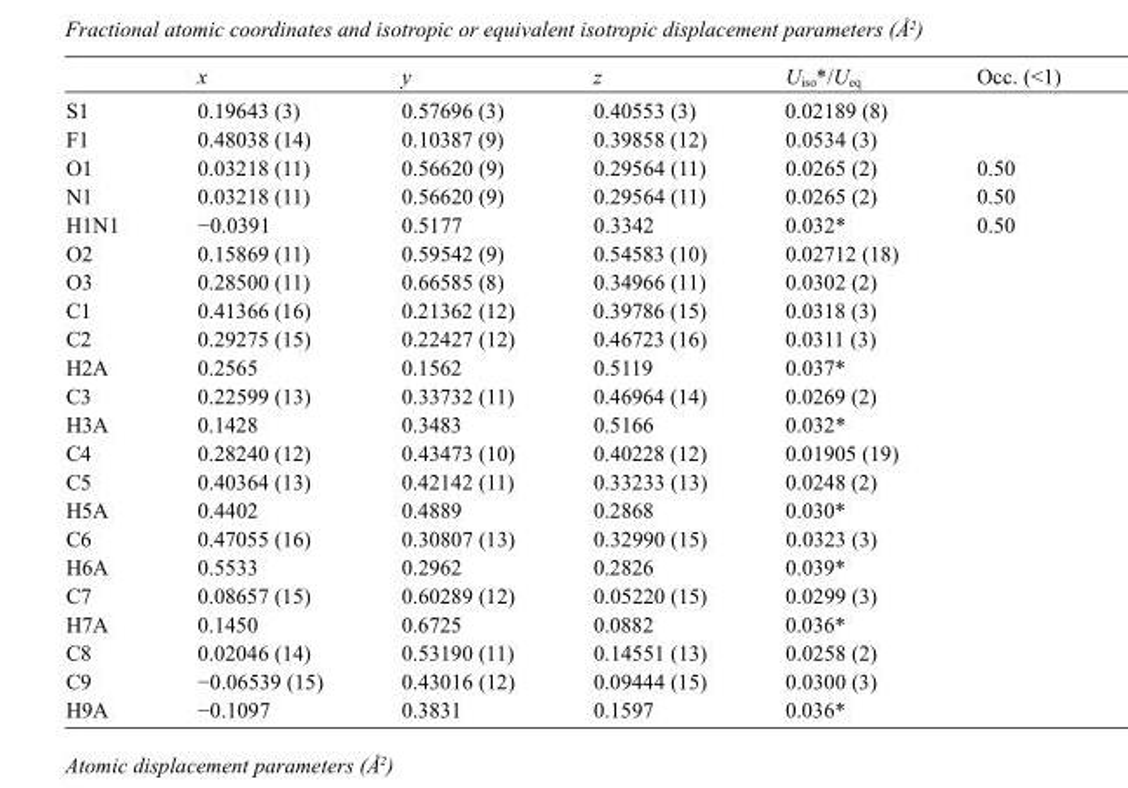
<table><thead><tr><td></td><td>x</td><td>y</td><td>z</td><td>U<sub>iso</sub>*/U<sub>eq</sub></td><td>Occ. (&lt;1)</td></tr></thead><tbody><tr><td>S1</td><td>0.19643 (3)</td><td>0.57696 (3)</td><td>0.40553 (3)</td><td>0.02189 (8)</td><td></td></tr><tr><td>F1</td><td>0.48038 (14)</td><td>0.10387 (9)</td><td>0.39858 (12)</td><td>0.0534 (3)</td><td></td></tr><tr><td>O1</td><td>0.03218 (11)</td><td>0.56620 (9)</td><td>0.29564 (11)</td><td>0.0265 (2)</td><td>0.50</td></tr><tr><td>N1</td><td>0.03218 (11)</td><td>0.56620 (9)</td><td>0.29564 (11)</td><td>0.0265 (2)</td><td>0.50</td></tr><tr><td>H1N1</td><td>−0.0391</td><td>0.5177</td><td>0.3342</td><td>0.032*</td><td>0.50</td></tr><tr><td>O2</td><td>0.15869 (11)</td><td>0.59542 (9)</td><td>0.54583 (10)</td><td>0.02712 (18)</td><td></td></tr><tr><td>O3</td><td>0.28500 (11)</td><td>0.66585 (8)</td><td>0.34966 (11)</td><td>0.0302 (2)</td><td></td></tr><tr><td>C1</td><td>0.41366 (16)</td><td>0.21362 (12)</td><td>0.39786 (15)</td><td>0.0318 (3)</td><td></td></tr><tr><td>C2</td><td>0.29275 (15)</td><td>0.22427 (12)</td><td>0.46723 (16)</td><td>0.0311 (3)</td><td></td></tr><tr><td>H2A</td><td>0.2565</td><td>0.1562</td><td>0.5119</td><td>0.037*</td><td></td></tr><tr><td>C3</td><td>0.22599 (13)</td><td>0.33732 (11)</td><td>0.46964 (14)</td><td>0.0269 (2)</td><td></td></tr><tr><td>H3A</td><td>0.1428</td><td>0.3483</td><td>0.5166</td><td>0.032*</td><td></td></tr><tr><td>C4</td><td>0.28240 (12)</td><td>0.43473 (10)</td><td>0.40228 (12)</td><td>0.01905 (19)</td><td></td></tr><tr><td>C5</td><td>0.40364 (13)</td><td>0.42142 (11)</td><td>0.33233 (13)</td><td>0.0248 (2)</td><td></td></tr><tr><td>H5A</td><td>0.4402</td><td>0.4889</td><td>0.2868</td><td>0.030*</td><td></td></tr><tr><td>C6</td><td>0.47055 (16)</td><td>0.30807 (13)</td><td>0.32990 (15)</td><td>0.0323 (3)</td><td></td></tr><tr><td>H6A</td><td>0.5533</td><td>0.2962</td><td>0.2826</td><td>0.039*</td><td></td></tr><tr><td>C7</td><td>0.08657 (15)</td><td>0.60289 (12)</td><td>0.05220 (15)</td><td>0.0299 (3)</td><td></td></tr><tr><td>H7A</td><td>0.1450</td><td>0.6725</td><td>0.0882</td><td>0.036*</td><td></td></tr><tr><td>C8</td><td>0.02046 (14)</td><td>0.53190 (11)</td><td>0.14551 (13)</td><td>0.0258 (2)</td><td></td></tr><tr><td>C9</td><td>−0.06539 (15)</td><td>0.43016 (12)</td><td>0.09444 (15)</td><td>0.0300 (3)</td><td></td></tr><tr><td>H9A</td><td>−0.1097</td><td>0.3831</td><td>0.1597</td><td>0.036*</td><td></td></tr></tbody></table>